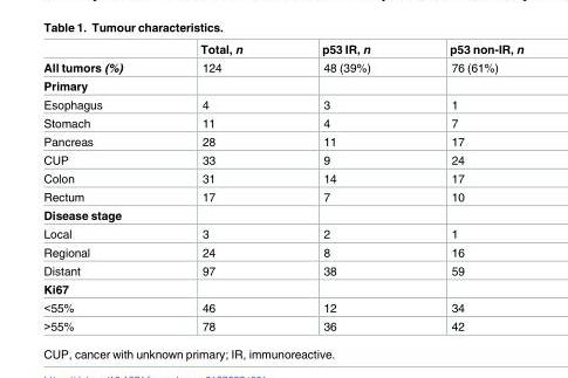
<table><thead><tr><td></td><td>Total, n</td><td>p53 IR, n</td><td>p53 non-IR, n</td></tr></thead><tbody><tr><td>All tumors (%)</td><td>124</td><td>48 (39%)</td><td>76 (61%)</td></tr><tr><td colspan="4">Primary</td></tr><tr><td>Esophagus</td><td>4</td><td>3</td><td>1</td></tr><tr><td>Stomach</td><td>11</td><td>4</td><td>7</td></tr><tr><td>Pancreas</td><td>28</td><td>11</td><td>17</td></tr><tr><td>CUP</td><td>33</td><td>9</td><td>24</td></tr><tr><td>Colon</td><td>31</td><td>14</td><td>17</td></tr><tr><td>Rectum</td><td>17</td><td>7</td><td>10</td></tr><tr><td colspan="4">Disease stage</td></tr><tr><td>Local</td><td>3</td><td>2</td><td>1</td></tr><tr><td>Regional</td><td>24</td><td>8</td><td>16</td></tr><tr><td>Distant</td><td>97</td><td>38</td><td>59</td></tr><tr><td colspan="4">Ki67</td></tr><tr><td>&lt;55%</td><td>46</td><td>12</td><td>34</td></tr><tr><td>&gt;55%</td><td>78</td><td>36</td><td>42</td></tr></tbody></table>